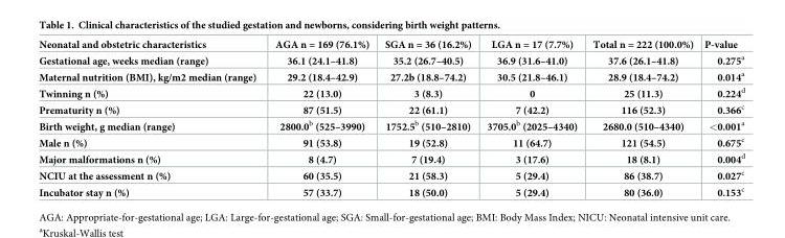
<table><thead><tr><td>Neonatal and obstetric characteristics</td><td>AGA n = 169 (76.1%)</td><td>SGA n = 36 (16.2%)</td><td>LGA n = 17 (7.7%)</td><td>Total n = 222 (100.0%)</td><td>P-value</td></tr></thead><tbody><tr><td>Gestational age, weeks median (range)</td><td>36.1 (24.1–41.8)</td><td>35.2 (26.7–40.5)</td><td>36.9 (31.6–41.0)</td><td>37.6 (26.1–41.8)</td><td>0.275<sup>a</sup></td></tr><tr><td>Maternal nutrition (BMI), kg/m2 median (range)</td><td>29.2 (18.4–42.9)</td><td>27.2b (18.8–74.2)</td><td>30.5 (21.8–46.1)</td><td>28.9 (18.4–74.2)</td><td>0.014<sup>a</sup></td></tr><tr><td>Twinning n (%)</td><td>22 (13.0)</td><td>3 (8.3)</td><td>0</td><td>25 (11.3)</td><td>0.224<sup>d</sup></td></tr><tr><td>Prematurity n (%)</td><td>87 (51.5)</td><td>22 (61.1)</td><td>7 (42.2)</td><td>116 (52.3)</td><td>0.366<sup>c</sup></td></tr><tr><td>Birth weight, g median (range)</td><td>2800.0<sup>b</sup> (525–3990)</td><td>1752.5<sup>b</sup> (510–2810)</td><td>3705.0<sup>b</sup> (2025–4340)</td><td>2680.0 (510–4340)</td><td>&lt;0.001<sup>a</sup></td></tr><tr><td>Male n (%)</td><td>91 (53.8)</td><td>19 (52.8)</td><td>11 (64.7)</td><td>121 (54.5)</td><td>0.675<sup>c</sup></td></tr><tr><td>Major malformations n (%)</td><td>8 (4.7)</td><td>7 (19.4)</td><td>3 (17.6)</td><td>18 (8.1)</td><td>0.004<sup>d</sup></td></tr><tr><td>NCIU at the assessment n (%)</td><td>60 (35.5)</td><td>21 (58.3)</td><td>5 (29.4)</td><td>86 (38.7)</td><td>0.027<sup>c</sup></td></tr><tr><td>Incubator stay n (%)</td><td>57 (33.7)</td><td>18 (50.0)</td><td>5 (29.4)</td><td>80 (36.0)</td><td>0.153<sup>c</sup></td></tr></tbody></table>